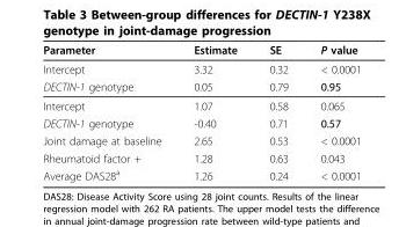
<table><thead><tr><td>Parameter</td><td>Estimate</td><td>SE</td><td>P value</td></tr></thead><tbody><tr><td>Intercept</td><td>3.32</td><td>0.32</td><td>&lt; 0.0001</td></tr><tr><td>DECTIN-1 genotype</td><td>0.05</td><td>0.79</td><td>0.95</td></tr><tr><td>Intercept</td><td>1.07</td><td>0.58</td><td>0.065</td></tr><tr><td>DECTIN-1 genotype</td><td>-0.40</td><td>0.71</td><td>0.57</td></tr><tr><td>Joint damage at baseline</td><td>2.65</td><td>0.53</td><td>&lt; 0.0001</td></tr><tr><td>Rheumatoid factor +</td><td>1.28</td><td>0.63</td><td>0.043</td></tr><tr><td>Average DAS28<sup>a</sup></td><td>1.26</td><td>0.24</td><td>&lt; 0.0001</td></tr></tbody></table>